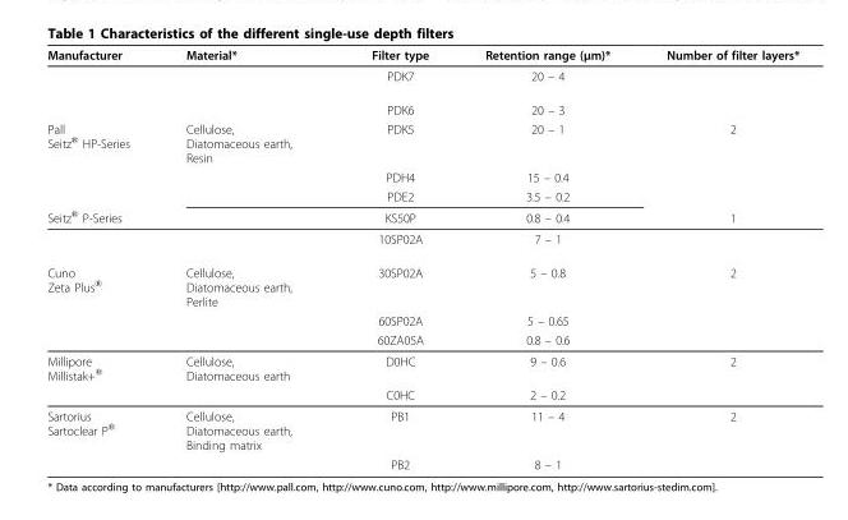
<table><thead><tr><td>Manufacturer</td><td>Material*</td><td>Filter type</td><td>Retention range (µm)*</td><td>Number of filter layers*</td></tr></thead><tbody><tr><td></td><td></td><td>PDK7</td><td>20 – 4</td><td></td></tr><tr><td></td><td></td><td>PDK6</td><td>20 – 3</td><td></td></tr><tr><td rowspan="3">Pall Seitz<sup>®</sup> HP-Series</td><td>Cellulose, Diatomaceous earth, Resin</td><td>PDK5</td><td>20 – 1</td><td>2</td></tr><tr><td></td><td>PDH4</td><td>15 – 0.4</td><td></td></tr><tr><td></td><td>PDE2</td><td>3.5 – 0.2</td><td></td></tr><tr><td rowspan="2">Seitz<sup>®</sup> P-Series</td><td></td><td>KS50P</td><td>0.8 – 0.4</td><td>1</td></tr><tr><td></td><td>10SP02A</td><td>7 – 1</td><td></td></tr><tr><td rowspan="3">Cuno Zeta Plus<sup>®</sup></td><td>Cellulose, Diatomaceous earth, Perlite</td><td>30SP02A</td><td>5 – 0.8</td><td>2</td></tr><tr><td></td><td>60SP02A</td><td>5 – 0.65</td><td></td></tr><tr><td></td><td>60ZA05A</td><td>0.8 – 0.6</td><td></td></tr><tr><td rowspan="2">Millipore Millistak+<sup>®</sup></td><td>Cellulose, Diatomaceous earth</td><td>D0HC</td><td>9 – 0.6</td><td>2</td></tr><tr><td></td><td>C0HC</td><td>2 – 0.2</td><td></td></tr><tr><td rowspan="2">Sartorius Sartoclear P<sup>®</sup></td><td>Cellulose, Diatomaceous earth, Binding matrix</td><td>PB1</td><td>11 – 4</td><td>2</td></tr><tr><td></td><td>PB2</td><td>8 – 1</td><td></td></tr></tbody></table>